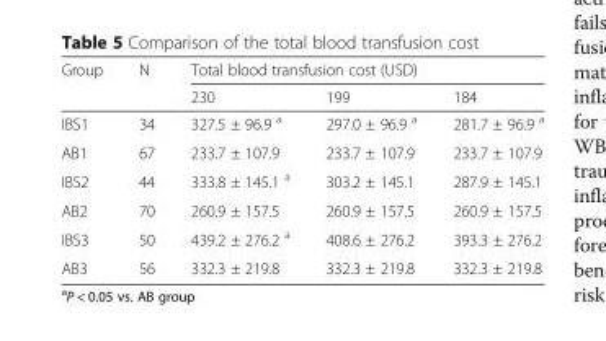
<table><thead><tr><td rowspan="2">Group</td><td rowspan="2">N</td><td colspan="3">Total blood transfusion cost (USD)</td></tr><tr><td>230</td><td>199</td><td>184</td></tr></thead><tbody><tr><td>IBS1</td><td>34</td><td>327.5 ± 96.9 <sup>a</sup></td><td>297.0 ± 96.9 <sup>a</sup></td><td>281.7 ± 96.9 <sup>a</sup></td></tr><tr><td>AB1</td><td>67</td><td>233.7 ± 107.9</td><td>233.7 ± 107.9</td><td>233.7 ± 107.9</td></tr><tr><td>IBS2</td><td>44</td><td>333.8 ± 145.1 <sup>a</sup></td><td>303.2 ± 145.1</td><td>287.9 ± 145.1</td></tr><tr><td>AB2</td><td>70</td><td>260.9 ± 157.5</td><td>260.9 ± 157.5</td><td>260.9 ± 157.5</td></tr><tr><td>IBS3</td><td>50</td><td>439.2 ± 276.2 <sup>a</sup></td><td>408.6 ± 276.2</td><td>393.3 ± 276.2</td></tr><tr><td>AB3</td><td>56</td><td>332.3 ± 219.8</td><td>332.3 ± 219.8</td><td>332.3 ± 219.8</td></tr></tbody></table>